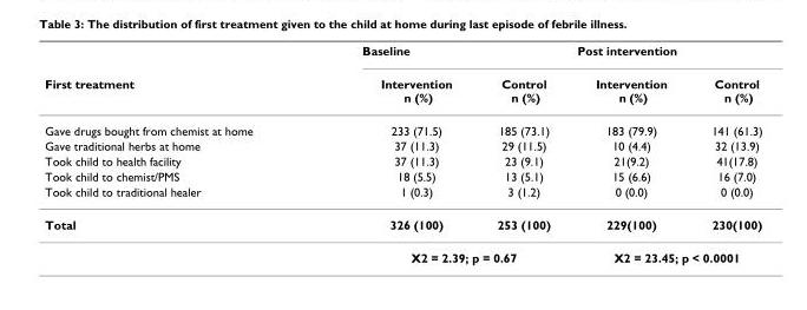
<table><thead><tr><td rowspan="2">First treatment</td><td colspan="2">Baseline</td><td colspan="2">Post intervention</td></tr><tr><td>Intervention n (%)</td><td>Control n (%)</td><td>Intervention n (%)</td><td>Control n (%)</td></tr></thead><tbody><tr><td>Gave drugs bought from chemist at home</td><td>233 (71.5)</td><td>185 (73.1)</td><td>183 (79.9)</td><td>141 (61.3)</td></tr><tr><td>Gave traditional herbs at home</td><td>37 (11.3)</td><td>29 (11.5)</td><td>10 (4.4)</td><td>32 (13.9)</td></tr><tr><td>Took child to health facility</td><td>37 (11.3)</td><td>23 (9.1)</td><td>21(9.2)</td><td>41(17.8)</td></tr><tr><td>Took child to chemist/PMS</td><td>18 (5.5)</td><td>13 (5.1)</td><td>15 (6.6)</td><td>16 (7.0)</td></tr><tr><td>Took child to traditional healer</td><td>1 (0.3)</td><td>3 (1.2)</td><td>0 (0.0)</td><td>0 (0.0)</td></tr><tr><td rowspan="2">Total</td><td>326 (100)</td><td>253 (100)</td><td>229(100)</td><td>230(100)</td></tr><tr><td colspan="2">X2 = 2.39; p = 0.67</td><td colspan="2">X2 = 23.45; p &lt; 0.0001</td></tr></tbody></table>